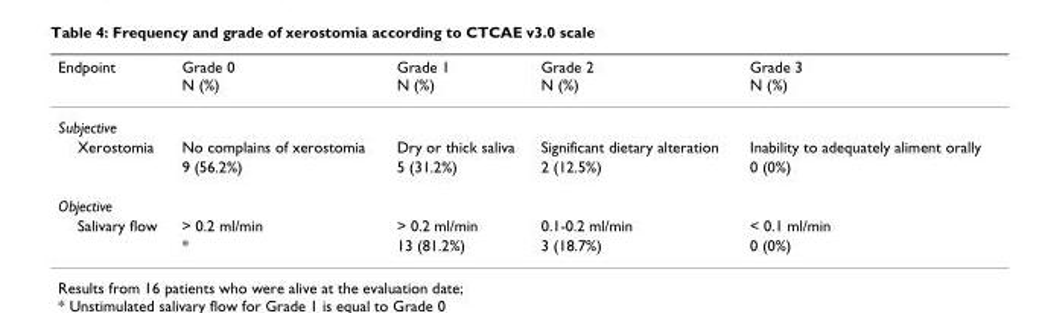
<table><thead><tr><td>Endpoint</td><td>Grade 0 N (%)</td><td>Grade 1 N (%)</td><td>Grade 2 N (%)</td><td>Grade 3 N (%)</td></tr></thead><tbody><tr><td colspan="5">Subjective</td></tr><tr><td rowspan="2">Xerostomia</td><td>No complains of xerostomia</td><td>Dry or thick saliva</td><td>Significant dietary alteration</td><td>Inability to adequately aliment orally</td></tr><tr><td>9 (56.2%)</td><td>5 (31.2%)</td><td>2 (12.5%)</td><td>0 (0%)</td></tr><tr><td colspan="5">Objective</td></tr><tr><td rowspan="2">Salivary flow</td><td>&gt; 0.2 ml/min</td><td>&gt; 0.2 ml/min</td><td>0.1-0.2 ml/min</td><td>&lt; 0.1 ml/min</td></tr><tr><td>*</td><td>13 (81.2%)</td><td>3 (18.7%)</td><td>0 (0%)</td></tr></tbody></table>